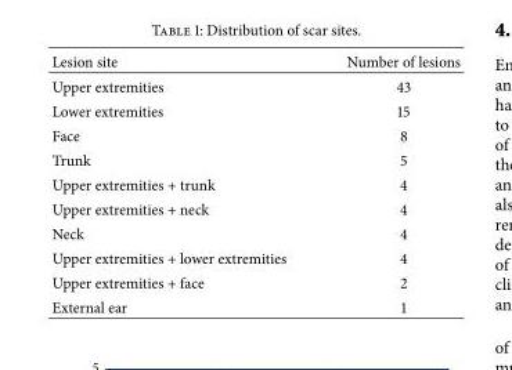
<table><thead><tr><td>Lesion site</td><td>Number of lesions</td></tr></thead><tbody><tr><td>Upper extremities</td><td>43</td></tr><tr><td>Lower extremities</td><td>15</td></tr><tr><td>Face</td><td>8</td></tr><tr><td>Trunk</td><td>5</td></tr><tr><td>Upper extremities + trunk</td><td>4</td></tr><tr><td>Upper extremities + neck</td><td>4</td></tr><tr><td>Neck</td><td>4</td></tr><tr><td>Upper extremities + lower extremities</td><td>4</td></tr><tr><td>Upper extremities + face</td><td>2</td></tr><tr><td>External ear</td><td>1</td></tr></tbody></table>